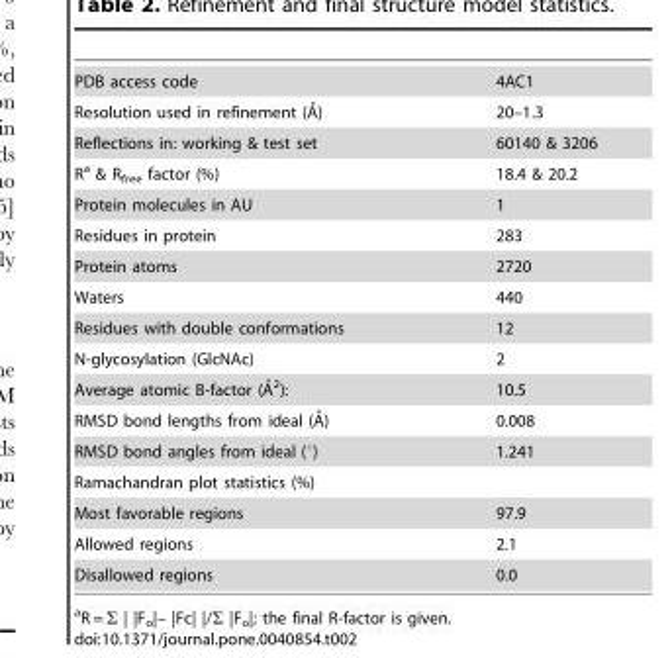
<table><tbody><tr><td>PDB access code</td><td>4AC1</td></tr><tr><td>Resolution used in refinement (A˚)</td><td>20–1.3</td></tr><tr><td>Reflections in: working &amp; test set</td><td>60140 &amp; 3206</td></tr><tr><td>R<sup>a</sup> &amp; R<sub>free</sub> factor (%)</td><td>18.4 &amp; 20.2</td></tr><tr><td>Protein molecules in AU</td><td>1</td></tr><tr><td>Residues in protein</td><td>283</td></tr><tr><td>Protein atoms</td><td>2720</td></tr><tr><td>Waters</td><td>440</td></tr><tr><td>Residues with double conformations</td><td>12</td></tr><tr><td>N-glycosylation (GlcNAc)</td><td>2</td></tr><tr><td>Average atomic B-factor (A˚2):</td><td>10.5</td></tr><tr><td>RMSD bond lengths from ideal (A˚)</td><td>0.008</td></tr><tr><td>RMSD bond angles from ideal (°)</td><td>1.241</td></tr><tr><td colspan="2">Ramachandran plot statistics (%)</td></tr><tr><td>Most favorable regions</td><td>97.9</td></tr><tr><td>Allowed regions</td><td>2.1</td></tr><tr><td>Disallowed regions</td><td>0.0</td></tr></tbody></table>